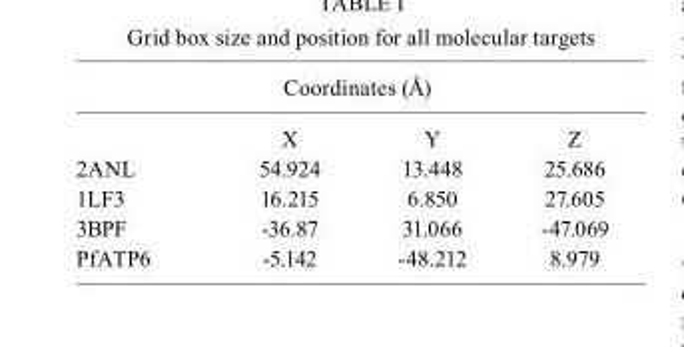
<table><thead><tr><td colspan="4">Coordinates (Å)</td></tr><tr><td></td><td>X</td><td>Y</td><td>Z</td></tr></thead><tbody><tr><td>2ANL</td><td>54.924</td><td>13.448</td><td>25.686</td></tr><tr><td>1LF3</td><td>16.215</td><td>6.850</td><td>27.605</td></tr><tr><td>3BPF</td><td>-36.87</td><td>31.066</td><td>-47.069</td></tr><tr><td>PfATP6</td><td>-5.142</td><td>-48.212</td><td>8.979</td></tr></tbody></table>